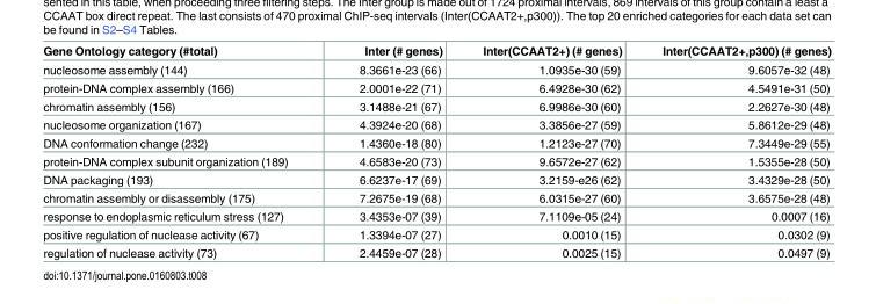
<table><thead><tr><td>Gene Ontology category (#total)</td><td>Inter (# genes)</td><td>Inter(CCAAT2+) (# genes)</td><td>Inter(CCAAT2+,p300) (# genes)</td></tr></thead><tbody><tr><td>nucleosome assembly (144)</td><td>8.3661e-23 (66)</td><td>1.0935e-30 (59)</td><td>9.6057e-32 (48)</td></tr><tr><td>protein-DNA complex assembly (166)</td><td>2.0001e-22 (71)</td><td>6.4928e-30 (62)</td><td>4.5491e-31 (50)</td></tr><tr><td>chromatin assembly (156)</td><td>3.1488e-21 (67)</td><td>6.9986e-30 (60)</td><td>2.2627e-30 (48)</td></tr><tr><td>nucleosome organization (167)</td><td>4.3924e-20 (68)</td><td>3.3856e-27 (59)</td><td>5.8612e-29 (48)</td></tr><tr><td>DNA conformation change (232)</td><td>1.4360e-18 (80)</td><td>1.2123e-27 (70)</td><td>7.3449e-29 (55)</td></tr><tr><td>protein-DNA complex subunit organization (189)</td><td>4.6583e-20 (73)</td><td>9.6572e-27 (62)</td><td>1.5355e-28 (50)</td></tr><tr><td>DNA packaging (193)</td><td>6.6237e-17 (69)</td><td>3.2159-e26 (62)</td><td>3.4329e-28 (50)</td></tr><tr><td>chromatin assembly or disassembly (175)</td><td>7.2675e-19 (68)</td><td>6.0315e-27 (60)</td><td>3.6575e-28 (48)</td></tr><tr><td>response to endoplasmic reticulum stress (127)</td><td>3.4353e-07 (39)</td><td>7.1109e-05 (24)</td><td>0.0007 (16)</td></tr><tr><td>positive regulation of nuclease activity (67)</td><td>1.3394e-07 (27)</td><td>0.0010 (15)</td><td>0.0302 (9)</td></tr><tr><td>regulation of nuclease activity (73)</td><td>2.4459e-07 (28)</td><td>0.0025 (15)</td><td>0.0497 (9)</td></tr></tbody></table>